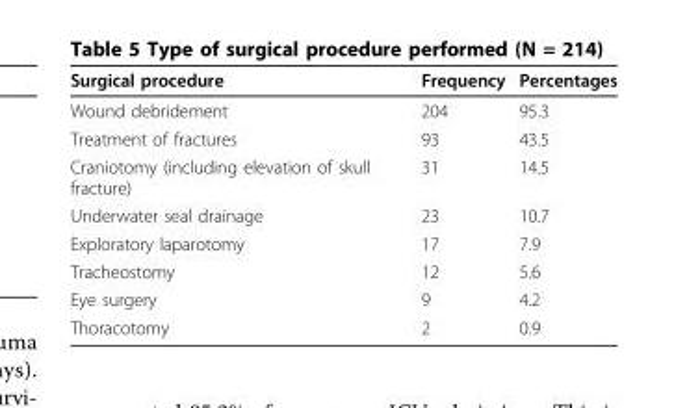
<table><thead><tr><td>Surgical procedure</td><td>Frequency</td><td>Percentages</td></tr></thead><tbody><tr><td>Wound debridement</td><td>204</td><td>95.3</td></tr><tr><td>Treatment of fractures</td><td>93</td><td>43.5</td></tr><tr><td>Craniotomy (including elevation of skull fracture)</td><td>31</td><td>14.5</td></tr><tr><td>Underwater seal drainage</td><td>23</td><td>10.7</td></tr><tr><td>Exploratory laparotomy</td><td>17</td><td>7.9</td></tr><tr><td>Tracheostomy</td><td>12</td><td>5.6</td></tr><tr><td>Eye surgery</td><td>9</td><td>4.2</td></tr><tr><td>Thoracotomy</td><td>2</td><td>0.9</td></tr></tbody></table>